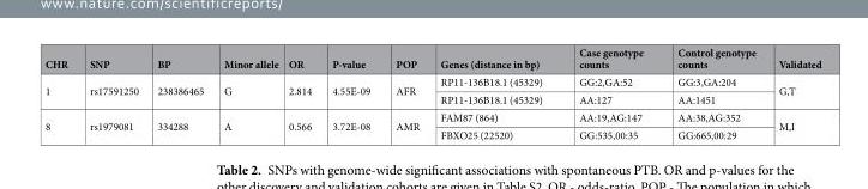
<table><thead><tr><td>CHR</td><td>SNP</td><td>BP</td><td>Minor allele</td><td>OR</td><td>P-value</td><td>POP</td><td>Genes (distance in bp)</td><td>Case genotype counts</td><td>Control genotype counts</td><td>Validated</td></tr></thead><tbody><tr><td rowspan="2">1</td><td rowspan="2">rs17591250</td><td rowspan="2">238386465</td><td rowspan="2">G</td><td rowspan="2">2.814</td><td rowspan="2">4.55E-09</td><td rowspan="2">AFR</td><td>RP11-136B18.1 (45329)</td><td>GG:2,GA:52</td><td>GG:3,GA:204</td><td rowspan="2">G,T</td></tr><tr><td>RP11-136B18.1 (45329)</td><td>AA:127</td><td>AA:1451</td></tr><tr><td rowspan="2">8</td><td rowspan="2">rs1979081</td><td rowspan="2">334288</td><td rowspan="2">A</td><td rowspan="2">0.566</td><td rowspan="2">3.72E-08</td><td rowspan="2">AMR</td><td>FAM87 (864)</td><td>AA:19,AG:147</td><td>AA:38,AG:352</td><td rowspan="2">M,I</td></tr><tr><td>FBXO25 (22520)</td><td>GG:535,00:35</td><td>GG:665,00:29</td></tr></tbody></table>